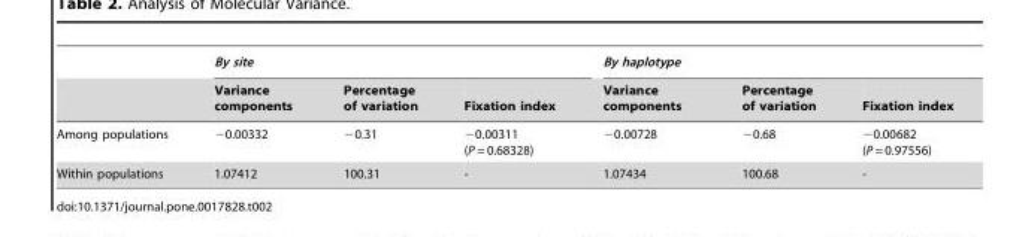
<table><thead><tr><td rowspan="2"></td><td colspan="3">By site</td><td colspan="3">By haplotype</td></tr><tr><td>Variance components</td><td>Percentage of variation</td><td>Fixation index</td><td>Variance components</td><td>Percentage of variation</td><td>Fixation index</td></tr></thead><tbody><tr><td>Among populations</td><td>−0.00332</td><td>−0.31</td><td>−0.00311 (P = 0.68328)</td><td>−0.00728</td><td>−0.68</td><td>−0.00682 (P = 0.97556)</td></tr><tr><td>Within populations</td><td>1.07412</td><td>100.31</td><td>-</td><td>1.07434</td><td>100.68</td><td>-</td></tr></tbody></table>